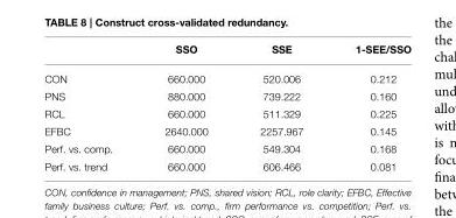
<table><thead><tr><td></td><td>SSO</td><td>SSE</td><td>1-SEE/SSO</td></tr></thead><tbody><tr><td>CON</td><td>660.000</td><td>520.006</td><td>0.212</td></tr><tr><td>PNS</td><td>880.000</td><td>739.222</td><td>0.160</td></tr><tr><td>RCL</td><td>660.000</td><td>511.329</td><td>0.225</td></tr><tr><td>EFBC</td><td>2640.000</td><td>2257.967</td><td>0.145</td></tr><tr><td>Perf. vs. comp.</td><td>660.000</td><td>549.304</td><td>0.168</td></tr><tr><td>Perf. vs. trend</td><td>660.000</td><td>606.466</td><td>0.081</td></tr></tbody></table>